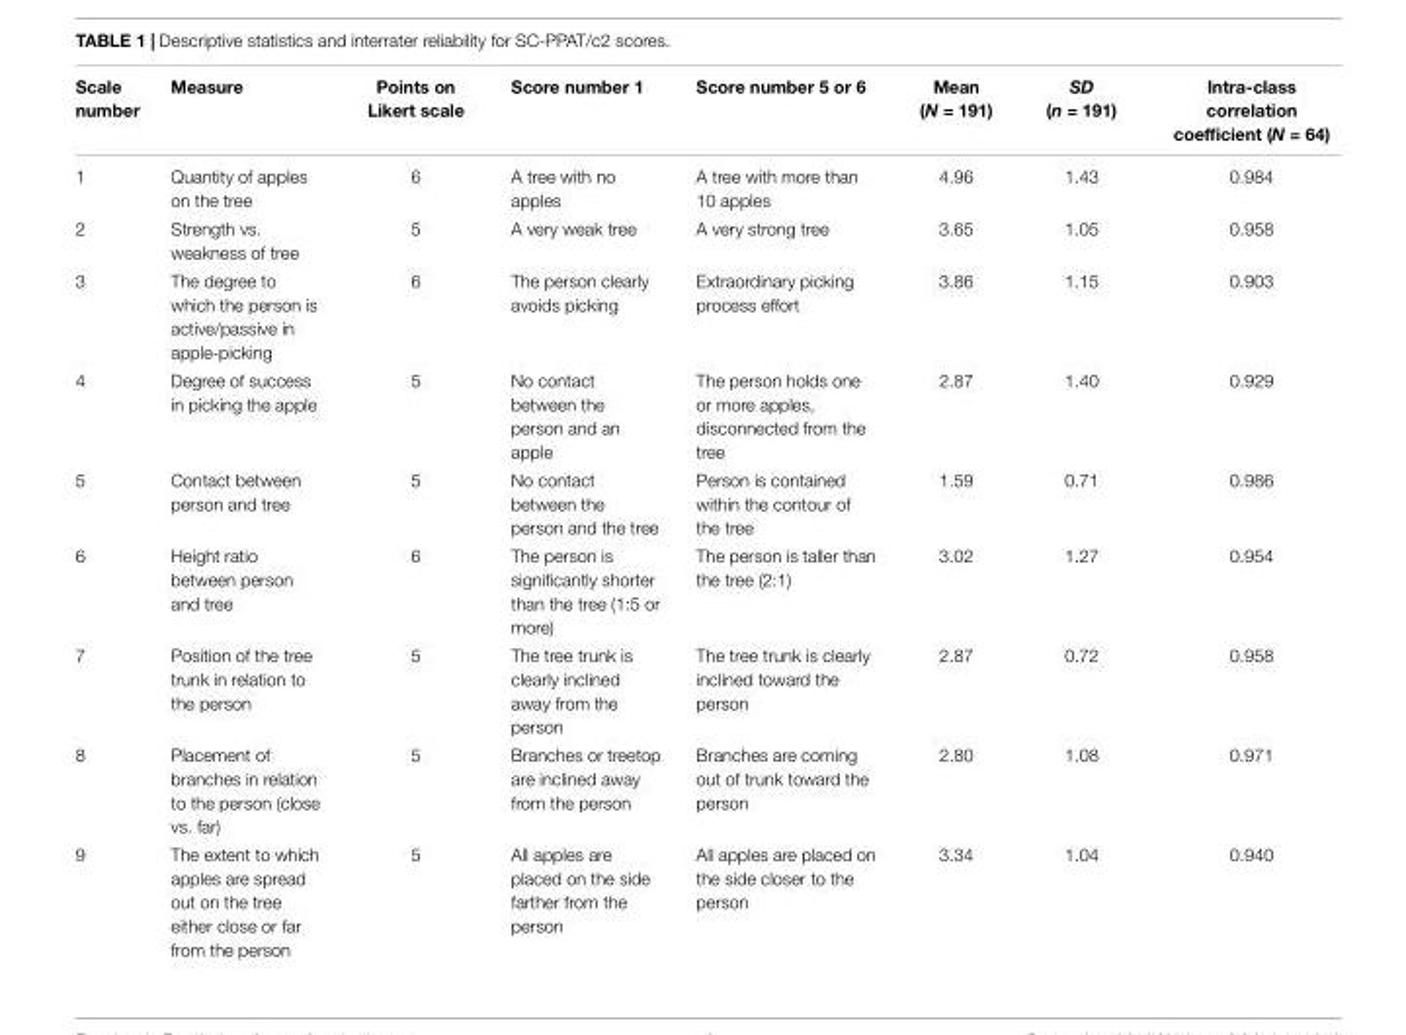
<table><thead><tr><td>Scale number</td><td>Measure</td><td>Points on Likert scale</td><td>Score number 1</td><td>Score number 5 or 6</td><td>Mean (N = 191)</td><td>SD (n = 191)</td><td>Intra-class correlation coefficient (N = 64)</td></tr></thead><tbody><tr><td>1</td><td>Quantity of apples on the tree</td><td>6</td><td>A tree with no apples</td><td>A tree with more than 10 apples</td><td>4.96</td><td>1.43</td><td>0.984</td></tr><tr><td>2</td><td>Strength vs. weakness of tree</td><td>5</td><td>A very weak tree</td><td>A very strong tree</td><td>3.65</td><td>1.05</td><td>0.958</td></tr><tr><td>3</td><td>The degree to which the person is active/passive in apple-picking</td><td>6</td><td>The person clearly avoids picking</td><td>Extraordinary picking process effort</td><td>3.86</td><td>1.15</td><td>0.903</td></tr><tr><td>4</td><td>Degree of success in picking the apple</td><td>5</td><td>No contact between the person and an apple</td><td>The person holds one or more apples, disconnected from the tree</td><td>2.87</td><td>1.40</td><td>0.929</td></tr><tr><td>5</td><td>Contact between person and tree</td><td>5</td><td>No contact between the person and the tree</td><td>Person is contained within the contour of the tree</td><td>1.59</td><td>0.71</td><td>0.986</td></tr><tr><td>6</td><td>Height ratio between person and tree</td><td>6</td><td>The person is significantly shorter than the tree (1:5 or more)</td><td>The person is taller than the tree (2:1)</td><td>3.02</td><td>1.27</td><td>0.954</td></tr><tr><td>7</td><td>Position of the tree trunk in relation to the person</td><td>5</td><td>The tree trunk is clearly inclined away from the person</td><td>The tree trunk is clearly inclined toward the person</td><td>2.87</td><td>0.72</td><td>0.958</td></tr><tr><td>8</td><td>Placement of branches in relation to the person (close vs. far)</td><td>5</td><td>Branches or treetop are inclined away from the person</td><td>Branches are coming out of trunk toward the person</td><td>2.80</td><td>1.08</td><td>0.971</td></tr><tr><td>9</td><td>The extent to which apples are spread out on the tree either close or far from the person</td><td>5</td><td>All apples are placed on the side farther from the person</td><td>All apples are placed on the side closer to the person</td><td>3.34</td><td>1.04</td><td>0.940</td></tr></tbody></table>